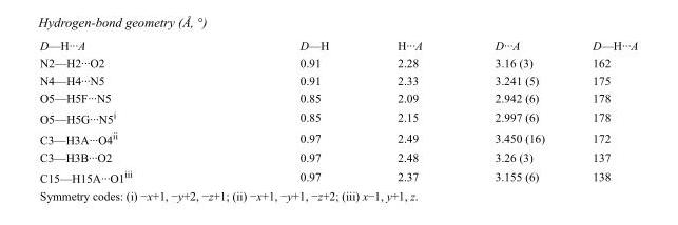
<table><tbody><tr><td>D—H···A</td><td>D—H</td><td>H···A</td><td>D···A</td><td>D—H···A</td></tr><tr><td>N2—H2···O2</td><td>0.91</td><td>2.28</td><td>3.16 (3)</td><td>162</td></tr><tr><td>N4—H4···N5</td><td>0.91</td><td>2.33</td><td>3.241 (5)</td><td>175</td></tr><tr><td>O5—H5F···N5</td><td>0.85</td><td>2.09</td><td>2.942 (6)</td><td>178</td></tr><tr><td>O5—H5G···N5<sup>i</sup></td><td>0.85</td><td>2.15</td><td>2.997 (6)</td><td>178</td></tr><tr><td>C3—H3A···O4<sup>ii</sup></td><td>0.97</td><td>2.49</td><td>3.450 (16)</td><td>172</td></tr><tr><td>C3—H3B···O2</td><td>0.97</td><td>2.48</td><td>3.26 (3)</td><td>137</td></tr><tr><td>C15—H15A···O1<sup>iii</sup></td><td>0.97</td><td>2.37</td><td>3.155 (6)</td><td>138</td></tr></tbody></table>